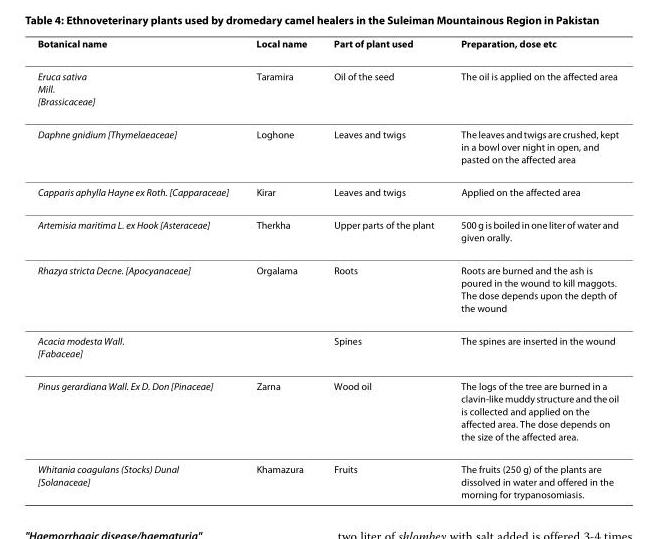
<table><thead><tr><td>Botanical name</td><td>Local name</td><td>Part of plant used</td><td>Preparation, dose etc</td></tr></thead><tbody><tr><td>Eruca sativa Mill. [Brassicaceae]</td><td>Taramira</td><td>Oil of the seed</td><td>The oil is applied on the affected area</td></tr><tr><td>Daphne gnidium [Thymelaeaceae]</td><td>Loghone</td><td>Leaves and twigs</td><td>The leaves and twigs are crushed, kept in a bowl over night in open, and pasted on the affected area</td></tr><tr><td>Capparis aphylla Hayne ex Roth. [Capparaceae]</td><td>Kirar</td><td>Leaves and twigs</td><td>Applied on the affected area</td></tr><tr><td>Artemisia maritima L. ex Hook [Asteraceae]</td><td>Therkha</td><td>Upper parts of the plant</td><td>500 g is boiled in one liter of water and given orally.</td></tr><tr><td>Rhazya stricta Decne. [Apocyanaceae]</td><td>Orgalama</td><td>Roots</td><td>Roots are burned and the ash is poured in the wound to kill maggots. The dose depends upon the depth of the wound</td></tr><tr><td>Acacia modesta Wall. [Fabaceae]</td><td></td><td>Spines</td><td>The spines are inserted in the wound</td></tr><tr><td>Pinus gerardiana Wall. Ex D. Don [Pinaceae]</td><td>Zarna</td><td>Wood oil</td><td>The logs of the tree are burned in a clavin-like muddy structure and the oil is collected and applied on the affected area. The dose depends on the size of the affected area.</td></tr><tr><td>Whitania coagulans (Stocks) Dunal [Solanaceae]</td><td>Khamazura</td><td>Fruits</td><td>The fruits (250 g) of the plants are dissolved in water and offered in the morning for trypanosomiasis.</td></tr></tbody></table>